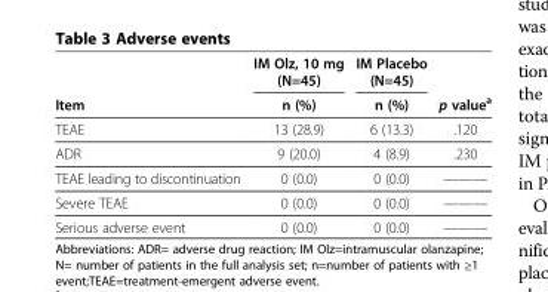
<table><thead><tr><td rowspan="2">Item</td><td rowspan="2">IM Olz, 10 mg (N=45) n (%)</td><td rowspan="2">IM Placebo (N=45) n (%)</td><td rowspan="2">p value<sup>a</sup></td></tr><tr></tr></thead><tbody><tr><td>TEAE</td><td>13 (28.9)</td><td>6 (13.3)</td><td>.120</td></tr><tr><td>ADR</td><td>9 (20.0)</td><td>4 (8.9)</td><td>.230</td></tr><tr><td>TEAE leading to discontinuation</td><td>0 (0.0)</td><td>0 (0.0)</td><td>———</td></tr><tr><td>Severe TEAE</td><td>0 (0.0)</td><td>0 (0.0)</td><td>———</td></tr><tr><td>Serious adverse event</td><td>0 (0.0)</td><td>0 (0.0)</td><td>———</td></tr></tbody></table>